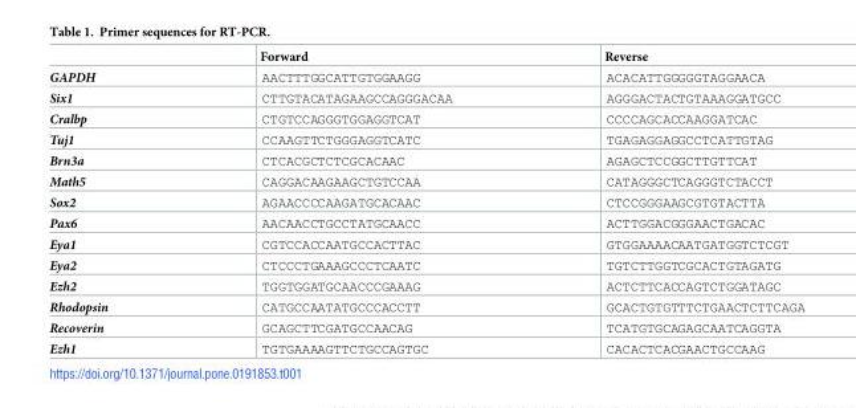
<table><thead><tr><td></td><td>Forward</td><td>Reverse</td></tr></thead><tbody><tr><td>GAPDH</td><td>AACTTTGGCATTGTGGAAGG</td><td>ACACATTGGGGGTAGGAACA</td></tr><tr><td>Six1</td><td>CTTGTACATAGAAGCCAGGGACAA</td><td>AGGGACTACTGTAAAGGATGCC</td></tr><tr><td>Cralbp</td><td>CTGTCCAGGGTGGAGGTCAT</td><td>CCCCAGCACCAAGGATCAC</td></tr><tr><td>Tuj1</td><td>CCAAGTTCTGGGAGGTCATC</td><td>TGAGAGGAGGCCTCATTGTAG</td></tr><tr><td>Brn3a</td><td>CTCACGCTCTCGCACAAC</td><td>AGAGCTCCGGCTTGTTCAT</td></tr><tr><td>Math5</td><td>CAGGACAAGAAGCTGTCCAA</td><td>CATAGGGCTCAGGGTCTACCT</td></tr><tr><td>Sox2</td><td>AGAACCCCAAGATGCACAAC</td><td>CTCCGGGAAGCGTGTACTTA</td></tr><tr><td>Pax6</td><td>AACAACCTGCCTATGCAACC</td><td>ACTTGGACGGGAACTGACAC</td></tr><tr><td>Eya1</td><td>CGTCCACCAATGCCACTTAC</td><td>GTGGAAAACAATGATGGTCTCGT</td></tr><tr><td>Eya2</td><td>CTCCCTGAAAGCCCTCAATC</td><td>TGTCTTGGTCGCACTGTAGATG</td></tr><tr><td>Ezh2</td><td>TGGTGGATGCAACCCGAAAG</td><td>ACTCTTCACCAGTCTGGATAGC</td></tr><tr><td>Rhodopsin</td><td>CATGCCAATATGCCCACCTT</td><td>GCACTGTGTTTCTGAACTCTTCAGA</td></tr><tr><td>Recoverin</td><td>GCAGCTTCGATGCCAACAG</td><td>TCATGTGCAGAGCAATCAGGTA</td></tr><tr><td>Ezh1</td><td>TGTGAAAAGTTCTGCCAGTGC</td><td>CACACTCACGAACTGCCAAG</td></tr></tbody></table>